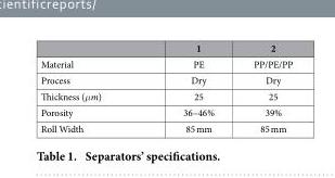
<table><thead><tr><td></td><td>1</td><td>2</td></tr></thead><tbody><tr><td>Material</td><td>PE</td><td>PP/PE/PP</td></tr><tr><td>Process</td><td>Dry</td><td>Dry</td></tr><tr><td>Thickness (μm)</td><td>25</td><td>25</td></tr><tr><td>Porosity</td><td>36–46%</td><td>39%</td></tr><tr><td>Roll Width</td><td>85 mm</td><td>85 mm</td></tr></tbody></table>